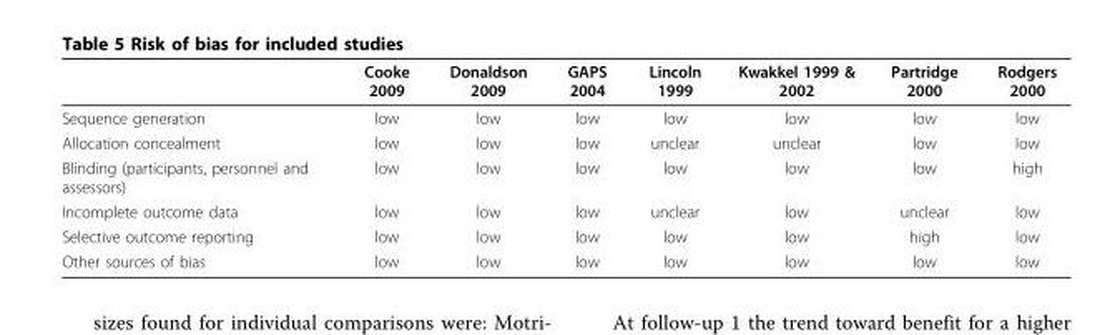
<table><thead><tr><td></td><td>Cooke 2009</td><td>Donaldson 2009</td><td>GAPS 2004</td><td>Lincoln 1999</td><td>Kwakkel 1999 &amp; 2002</td><td>Partridge 2000</td><td>Rodgers 2000</td></tr></thead><tbody><tr><td>Sequence generation</td><td>low</td><td>low</td><td>low</td><td>low</td><td>low</td><td>low</td><td>low</td></tr><tr><td>Allocation concealment</td><td>low</td><td>low</td><td>low</td><td>unclear</td><td>unclear</td><td>low</td><td>low</td></tr><tr><td>Blinding (participants, personnel and assessors)</td><td>low</td><td>low</td><td>low</td><td>low</td><td>low</td><td>low</td><td>high</td></tr><tr><td>Incomplete outcome data</td><td>low</td><td>low</td><td>low</td><td>unclear</td><td>low</td><td>unclear</td><td>low</td></tr><tr><td>Selective outcome reporting</td><td>low</td><td>low</td><td>low</td><td>low</td><td>low</td><td>high</td><td>low</td></tr><tr><td>Other sources of bias</td><td>low</td><td>low</td><td>low</td><td>low</td><td>low</td><td>low</td><td>low</td></tr></tbody></table>